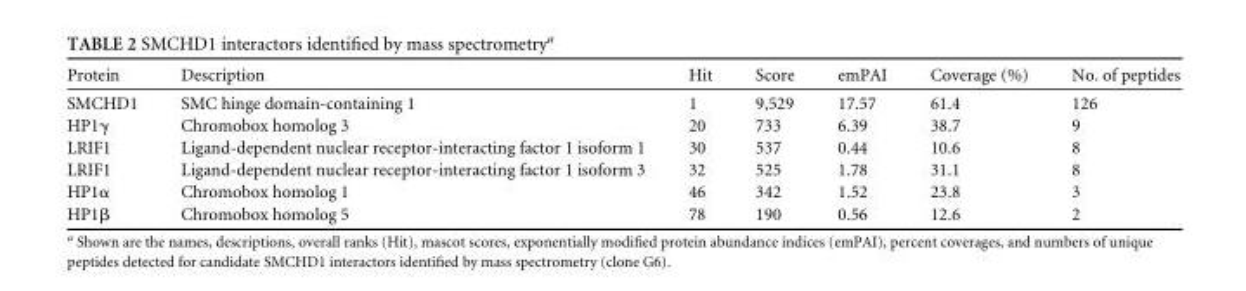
<table><thead><tr><td>Protein</td><td>Description</td><td>Hit</td><td>Score</td><td>emPAI</td><td>Coverage (%)</td><td>No. of peptides</td></tr></thead><tbody><tr><td>SMCHD1</td><td>SMC hinge domain-containing 1</td><td>1</td><td>9,529</td><td>17.57</td><td>61.4</td><td>126</td></tr><tr><td>HP1γ</td><td>Chromobox homolog 3</td><td>20</td><td>733</td><td>6.39</td><td>38.7</td><td>9</td></tr><tr><td>LRIF1</td><td>Ligand-dependent nuclear receptor-interacting factor 1 isoform 1</td><td>30</td><td>537</td><td>0.44</td><td>10.6</td><td>8</td></tr><tr><td>LRIF1</td><td>Ligand-dependent nuclear receptor-interacting factor 1 isoform 3</td><td>32</td><td>525</td><td>1.78</td><td>31.1</td><td>8</td></tr><tr><td>HP1α</td><td>Chromobox homolog 1</td><td>46</td><td>342</td><td>1.52</td><td>23.8</td><td>3</td></tr><tr><td>HP1β</td><td>Chromobox homolog 5</td><td>78</td><td>190</td><td>0.56</td><td>12.6</td><td>2</td></tr></tbody></table>